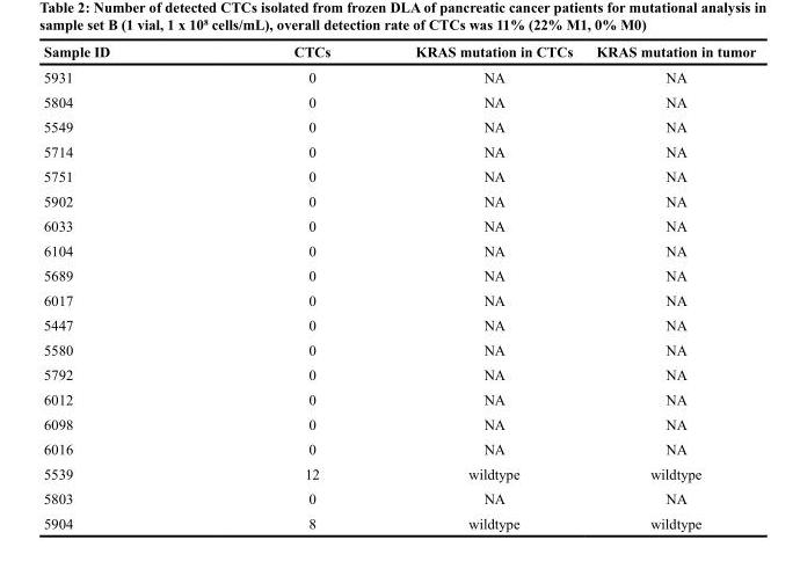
<table><thead><tr><td>Sample ID</td><td>CTCs</td><td>KRAS mutation in CTCs</td><td>KRAS mutation in tumor</td></tr></thead><tbody><tr><td>5931</td><td>0</td><td>NA</td><td>NA</td></tr><tr><td>5804</td><td>0</td><td>NA</td><td>NA</td></tr><tr><td>5549</td><td>0</td><td>NA</td><td>NA</td></tr><tr><td>5714</td><td>0</td><td>NA</td><td>NA</td></tr><tr><td>5751</td><td>0</td><td>NA</td><td>NA</td></tr><tr><td>5902</td><td>0</td><td>NA</td><td>NA</td></tr><tr><td>6033</td><td>0</td><td>NA</td><td>NA</td></tr><tr><td>6104</td><td>0</td><td>NA</td><td>NA</td></tr><tr><td>5689</td><td>0</td><td>NA</td><td>NA</td></tr><tr><td>6017</td><td>0</td><td>NA</td><td>NA</td></tr><tr><td>5447</td><td>0</td><td>NA</td><td>NA</td></tr><tr><td>5580</td><td>0</td><td>NA</td><td>NA</td></tr><tr><td>5792</td><td>0</td><td>NA</td><td>NA</td></tr><tr><td>6012</td><td>0</td><td>NA</td><td>NA</td></tr><tr><td>6098</td><td>0</td><td>NA</td><td>NA</td></tr><tr><td>6016</td><td>0</td><td>NA</td><td>NA</td></tr><tr><td>5539</td><td>12</td><td>wildtype</td><td>wildtype</td></tr><tr><td>5803</td><td>0</td><td>NA</td><td>NA</td></tr><tr><td>5904</td><td>8</td><td>wildtype</td><td>wildtype</td></tr></tbody></table>